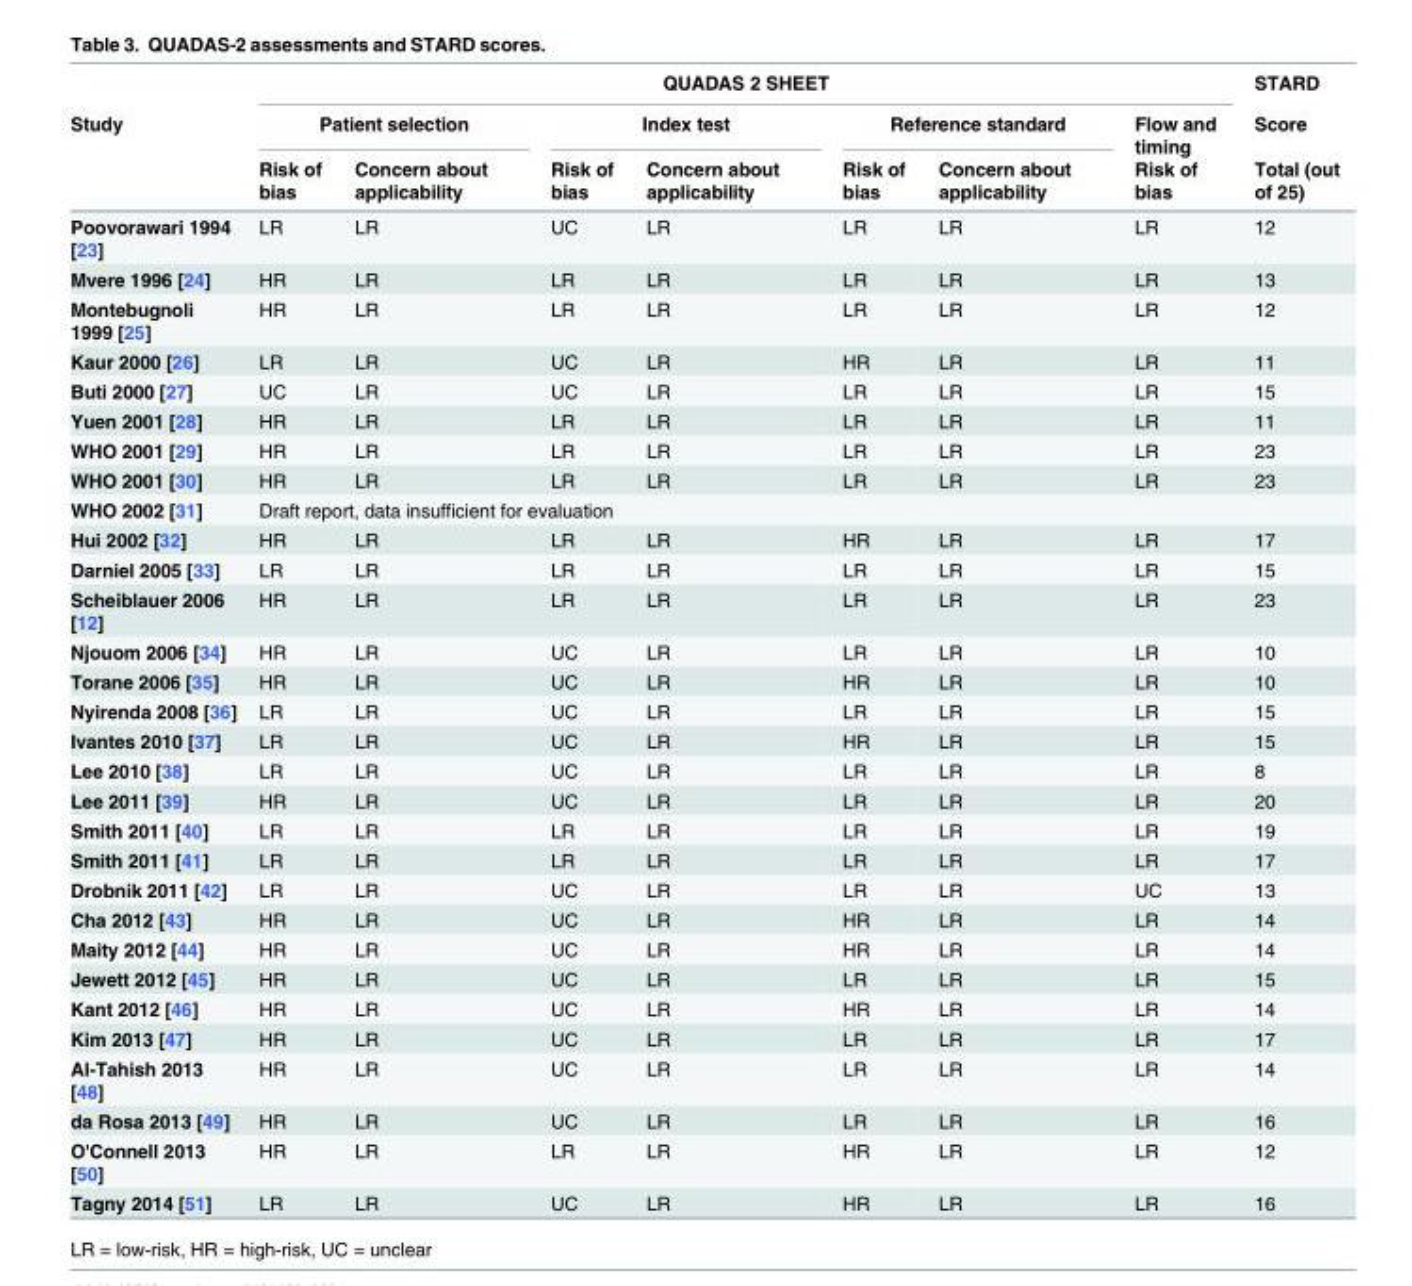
<table><thead><tr><td rowspan="3">Study</td><td colspan="7">QUADAS 2 SHEET</td><td rowspan="3">STARD Score Total (out of 25)</td></tr><tr><td colspan="2">Patient selection</td><td colspan="2">Index test</td><td colspan="2">Reference standard</td><td rowspan="2">Flow and timing Risk of bias</td></tr><tr><td>Risk of bias</td><td>Concern about applicability</td><td>Risk of bias</td><td>Concern about applicability</td><td>Risk of bias</td><td>Concern about applicability</td></tr></thead><tbody><tr><td>Poovorawari 1994 [23]</td><td>LR</td><td>LR</td><td>UC</td><td>LR</td><td>LR</td><td>LR</td><td>LR</td><td>12</td></tr><tr><td>Mvere 1996 [24]</td><td>HR</td><td>LR</td><td>LR</td><td>LR</td><td>LR</td><td>LR</td><td>LR</td><td>13</td></tr><tr><td>Montebugnoli 1999 [25]</td><td>HR</td><td>LR</td><td>LR</td><td>LR</td><td>LR</td><td>LR</td><td>LR</td><td>12</td></tr><tr><td>Kaur 2000 [26]</td><td>LR</td><td>LR</td><td>UC</td><td>LR</td><td>HR</td><td>LR</td><td>LR</td><td>11</td></tr><tr><td>Buti 2000 [27]</td><td>UC</td><td>LR</td><td>UC</td><td>LR</td><td>LR</td><td>LR</td><td>LR</td><td>15</td></tr><tr><td>Yuen 2001 [28]</td><td>HR</td><td>LR</td><td>LR</td><td>LR</td><td>LR</td><td>LR</td><td>LR</td><td>11</td></tr><tr><td>WHO 2001 [29]</td><td>HR</td><td>LR</td><td>LR</td><td>LR</td><td>LR</td><td>LR</td><td>LR</td><td>23</td></tr><tr><td>WHO 2001 [30]</td><td>HR</td><td>LR</td><td>LR</td><td>LR</td><td>LR</td><td>LR</td><td>LR</td><td>23</td></tr><tr><td>WHO 2002 [31]</td><td colspan="8">Draft report, data insufficient for evaluation</td></tr><tr><td>Hui 2002 [32]</td><td>HR</td><td>LR</td><td>LR</td><td>LR</td><td>HR</td><td>LR</td><td>LR</td><td>17</td></tr><tr><td>Darniel 2005 [33]</td><td>LR</td><td>LR</td><td>LR</td><td>LR</td><td>LR</td><td>LR</td><td>LR</td><td>15</td></tr><tr><td>Scheiblauer 2006 [12]</td><td>HR</td><td>LR</td><td>LR</td><td>LR</td><td>LR</td><td>LR</td><td>LR</td><td>23</td></tr><tr><td>Njouom 2006 [34]</td><td>HR</td><td>LR</td><td>UC</td><td>LR</td><td>LR</td><td>LR</td><td>LR</td><td>10</td></tr><tr><td>Torane 2006 [35]</td><td>HR</td><td>LR</td><td>UC</td><td>LR</td><td>HR</td><td>LR</td><td>LR</td><td>10</td></tr><tr><td>Nyirenda 2008 [36]</td><td>LR</td><td>LR</td><td>UC</td><td>LR</td><td>LR</td><td>LR</td><td>LR</td><td>15</td></tr><tr><td>Ivantes 2010 [37]</td><td>LR</td><td>LR</td><td>UC</td><td>LR</td><td>HR</td><td>LR</td><td>LR</td><td>15</td></tr><tr><td>Lee 2010 [38]</td><td>LR</td><td>LR</td><td>UC</td><td>LR</td><td>LR</td><td>LR</td><td>LR</td><td>8</td></tr><tr><td>Lee 2011 [39]</td><td>HR</td><td>LR</td><td>UC</td><td>LR</td><td>LR</td><td>LR</td><td>LR</td><td>20</td></tr><tr><td>Smith 2011 [40]</td><td>LR</td><td>LR</td><td>LR</td><td>LR</td><td>LR</td><td>LR</td><td>LR</td><td>19</td></tr><tr><td>Smith 2011 [41]</td><td>LR</td><td>LR</td><td>LR</td><td>LR</td><td>LR</td><td>LR</td><td>LR</td><td>17</td></tr><tr><td>Drobnik 2011 [42]</td><td>LR</td><td>LR</td><td>UC</td><td>LR</td><td>LR</td><td>LR</td><td>UC</td><td>13</td></tr><tr><td>Cha 2012 [43]</td><td>HR</td><td>LR</td><td>UC</td><td>LR</td><td>HR</td><td>LR</td><td>LR</td><td>14</td></tr><tr><td>Maity 2012 [44]</td><td>HR</td><td>LR</td><td>UC</td><td>LR</td><td>HR</td><td>LR</td><td>LR</td><td>14</td></tr><tr><td>Jewett 2012 [45]</td><td>HR</td><td>LR</td><td>UC</td><td>LR</td><td>LR</td><td>LR</td><td>LR</td><td>15</td></tr><tr><td>Kant 2012 [46]</td><td>HR</td><td>LR</td><td>UC</td><td>LR</td><td>HR</td><td>LR</td><td>LR</td><td>14</td></tr><tr><td>Kim 2013 [47]</td><td>HR</td><td>LR</td><td>UC</td><td>LR</td><td>LR</td><td>LR</td><td>LR</td><td>17</td></tr><tr><td>Al-Tahish 2013 [48]</td><td>HR</td><td>LR</td><td>UC</td><td>LR</td><td>LR</td><td>LR</td><td>LR</td><td>14</td></tr><tr><td>da Rosa 2013 [49]</td><td>HR</td><td>LR</td><td>UC</td><td>LR</td><td>LR</td><td>LR</td><td>LR</td><td>16</td></tr><tr><td>O&#x27;Connell 2013 [50]</td><td>HR</td><td>LR</td><td>LR</td><td>LR</td><td>HR</td><td>LR</td><td>LR</td><td>12</td></tr><tr><td>Tagny 2014 [51]</td><td>LR</td><td>LR</td><td>UC</td><td>LR</td><td>HR</td><td>LR</td><td>LR</td><td>16</td></tr></tbody></table>